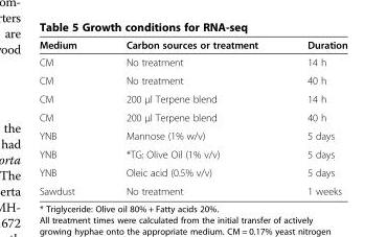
<table><thead><tr><td>Medium</td><td>Carbon sources or treatment</td><td>Duration</td></tr></thead><tbody><tr><td>CM</td><td>No treatment</td><td>14 h</td></tr><tr><td>CM</td><td>No treatment</td><td>40 h</td></tr><tr><td>CM</td><td>200 μl Terpene blend</td><td>14 h</td></tr><tr><td>CM</td><td>200 μl Terpene blend</td><td>40 h</td></tr><tr><td>YNB</td><td>Mannose (1% w/v)</td><td>5 days</td></tr><tr><td>YNB</td><td>*TG: Olive Oil (1% v/v)</td><td>5 days</td></tr><tr><td>YNB</td><td>Oleic acid (0.5% v/v)</td><td>5 days</td></tr><tr><td>Sawdust</td><td>No treatment</td><td>1 weeks</td></tr></tbody></table>